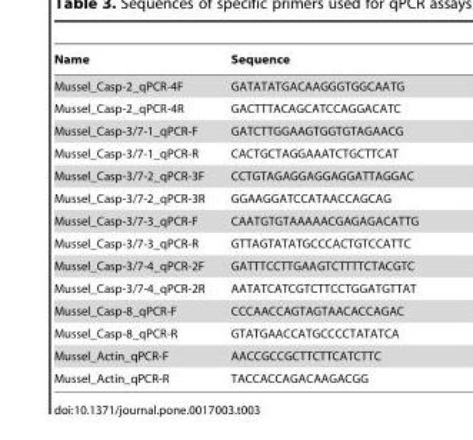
<table><thead><tr><td>Name</td><td>Sequence</td></tr></thead><tbody><tr><td>Mussel_Casp-2_qPCR-4F</td><td>GATATATGACAAGGGTGGCAATG</td></tr><tr><td>Mussel_Casp-2_qPCR-4R</td><td>GACTTTACAGCATCCAGGACATC</td></tr><tr><td>Mussel_Casp-3/7-1_qPCR-F</td><td>GATCTTGGAAGTGGTGTAGAACG</td></tr><tr><td>Mussel_Casp-3/7-1_qPCR-R</td><td>CACTGCTAGGAAATCTGCTTCAT</td></tr><tr><td>Mussel_Casp-3/7-2_qPCR-3F</td><td>CCTGTAGAGGAGGAGGATTAGGAC</td></tr><tr><td>Mussel_Casp-3/7-2_qPCR-3R</td><td>GGAAGGATCCATAACCAGCAG</td></tr><tr><td>Mussel_Casp-3/7-3_qPCR-F</td><td>CAATGTGTAAAAACGAGAGACATTG</td></tr><tr><td>Mussel_Casp-3/7-3_qPCR-R</td><td>GTTAGTATATGCCCACTGTCCATTC</td></tr><tr><td>Mussel_Casp-3/7-4_qPCR-2F</td><td>GATTTCCTTGAAGTCTTTTCTACGTC</td></tr><tr><td>Mussel_Casp-3/7-4_qPCR-2R</td><td>AATATCATCGTCTTCCTGGATGTTAT</td></tr><tr><td>Mussel_Casp-8_qPCR-F</td><td>CCCAACCAGTAGTAACACCAGAC</td></tr><tr><td>Mussel_Casp-8_qPCR-R</td><td>GTATGAACCATGCCCCTATATCA</td></tr><tr><td>Mussel_Actin_qPCR-F</td><td>AACCGCCGCTTCTTCATCTTC</td></tr><tr><td>Mussel_Actin_qPCR-R</td><td>TACCACCAGACAAGACGG</td></tr></tbody></table>